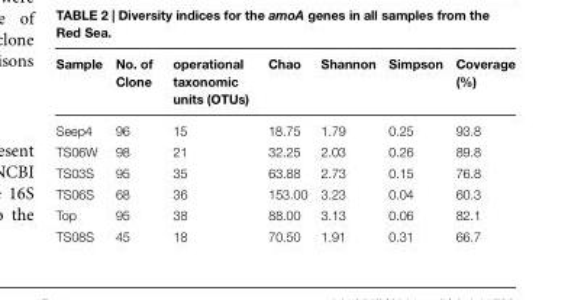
<table><thead><tr><td>Sample</td><td>No. of Clone</td><td>operational taxonomic units (OTUs)</td><td>Chao</td><td>Shannon</td><td>Simpson</td><td>Coverage (%)</td></tr></thead><tbody><tr><td>Seep4</td><td>96</td><td>15</td><td>18.75</td><td>1.79</td><td>0.25</td><td>93.8</td></tr><tr><td>TS06W</td><td>98</td><td>21</td><td>32.25</td><td>2.03</td><td>0.26</td><td>89.8</td></tr><tr><td>TS03S</td><td>95</td><td>35</td><td>63.88</td><td>2.73</td><td>0.15</td><td>76.8</td></tr><tr><td>TS06S</td><td>68</td><td>36</td><td>153.00</td><td>3.23</td><td>0.04</td><td>60.3</td></tr><tr><td>Top</td><td>95</td><td>38</td><td>88.00</td><td>3.13</td><td>0.06</td><td>82.1</td></tr><tr><td>TS08S</td><td>45</td><td>18</td><td>70.50</td><td>1.91</td><td>0.31</td><td>66.7</td></tr></tbody></table>